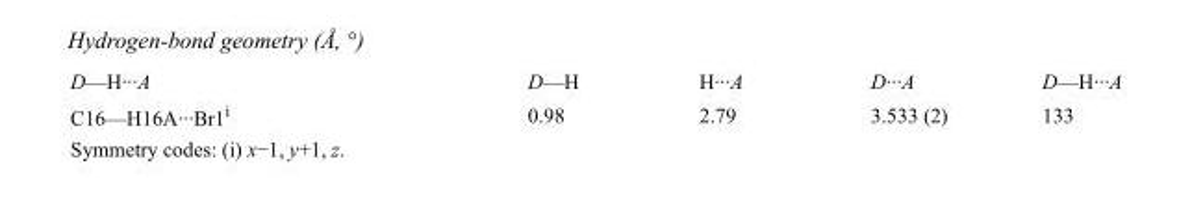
<table><tbody><tr><td>D—H···A</td><td>D—H</td><td>H···A</td><td>D···A</td><td>D—H···A</td></tr><tr><td>C16—H16A···Br1<sup>i</sup></td><td>0.98</td><td>2.79</td><td>3.533 (2)</td><td>133</td></tr></tbody></table>